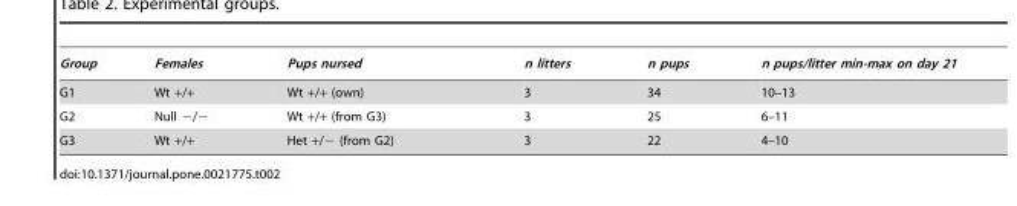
<table><thead><tr><td>Group</td><td>Females</td><td>Pups nursed</td><td>n litters</td><td>n pups</td><td>n pups/litter min-max on day 21</td></tr></thead><tbody><tr><td>G1</td><td>Wt +/+</td><td>Wt +/+ (own)</td><td>3</td><td>34</td><td>10–13</td></tr><tr><td>G2</td><td>Null −/−</td><td>Wt +/+ (from G3)</td><td>3</td><td>25</td><td>6–11</td></tr><tr><td>G3</td><td>Wt +/+</td><td>Het +/− (from G2)</td><td>3</td><td>22</td><td>4–10</td></tr></tbody></table>